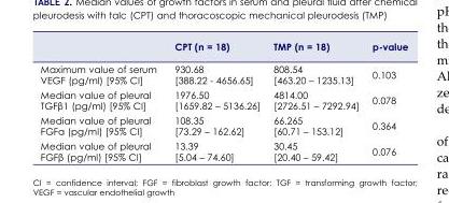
<table><thead><tr><td></td><td>CPT (n = 18)</td><td>TMP (n = 18)</td><td>p-value</td></tr></thead><tbody><tr><td>Maximum value of serum VEGF (pg/ml) [95% CI]</td><td>930.68 [388.22 - 4656.65]</td><td>808.54 [463.20 – 1235.13]</td><td>0.103</td></tr><tr><td>Median value of pleural TGFβ1 (pg/ml) [95% CI]</td><td>1976.50 [1659.82 – 5136.26]</td><td>4814.00 [2726.51 – 7292.94]</td><td>0.078</td></tr><tr><td>Median value of pleural FGFα (pg/ml) [95% CI]</td><td>108.35 [73.29 – 162.62]</td><td>66.265 [60.71 – 153.12]</td><td>0.364</td></tr><tr><td>Median value of pleural FGFβ (pg/ml) [95% CI]</td><td>13.39 [5.04 – 74.60]</td><td>30.45 [20.40 – 59.42]</td><td>0.076</td></tr></tbody></table>